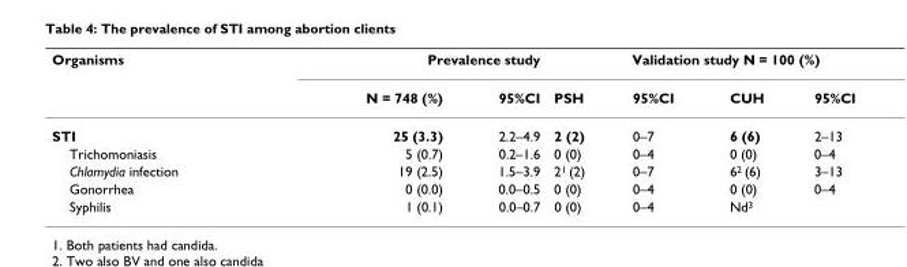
<table><thead><tr><td rowspan="2">Organisms</td><td colspan="2">Prevalence study</td><td colspan="4">Validation study N = 100 (%)</td></tr><tr><td>N = 748 (%)</td><td>95%CI</td><td>PSH</td><td>95%CI</td><td>CUH</td><td>95%CI</td></tr></thead><tbody><tr><td>STI</td><td>25 (3.3)</td><td>2.2–4.9</td><td>2 (2)</td><td>0–7</td><td>6 (6)</td><td>2–13</td></tr><tr><td>Trichomoniasis</td><td>5 (0.7)</td><td>0.2–1.6</td><td>0 (0)</td><td>0–4</td><td>0 (0)</td><td>0–4</td></tr><tr><td>Chlamydia infection</td><td>19 (2.5)</td><td>1.5–3.9</td><td>2<sup>1</sup> (2)</td><td>0–7</td><td>6<sup>2</sup> (6)</td><td>3–13</td></tr><tr><td>Gonorrhea</td><td>0 (0.0)</td><td>0.0–0.5</td><td>0 (0)</td><td>0–4</td><td>0 (0)</td><td>0–4</td></tr><tr><td>Syphilis</td><td>1 (0.1)</td><td>0.0–0.7</td><td>0 (0)</td><td>0–4</td><td>Nd<sup>3</sup></td><td></td></tr></tbody></table>